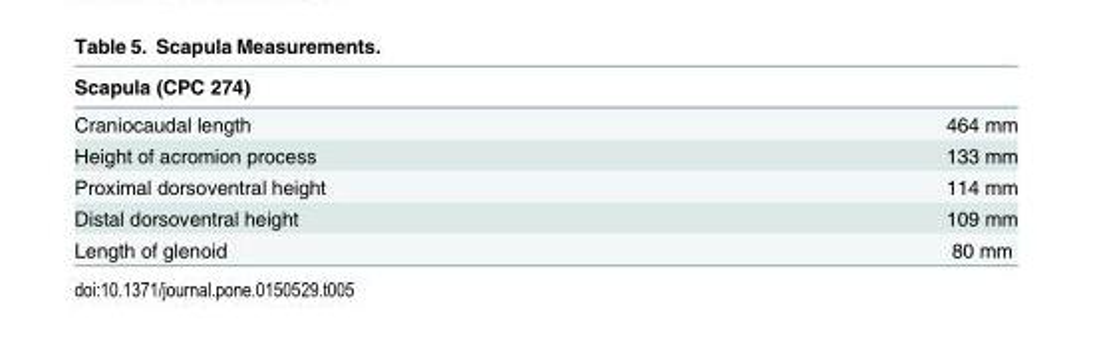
<table><thead><tr><td>Scapula (CPC 274)</td><td></td></tr></thead><tbody><tr><td>Craniocaudal length</td><td>464 mm</td></tr><tr><td>Height of acromion process</td><td>133 mm</td></tr><tr><td>Proximal dorsoventral height</td><td>114 mm</td></tr><tr><td>Distal dorsoventral height</td><td>109 mm</td></tr><tr><td>Length of glenoid</td><td>80 mm</td></tr></tbody></table>